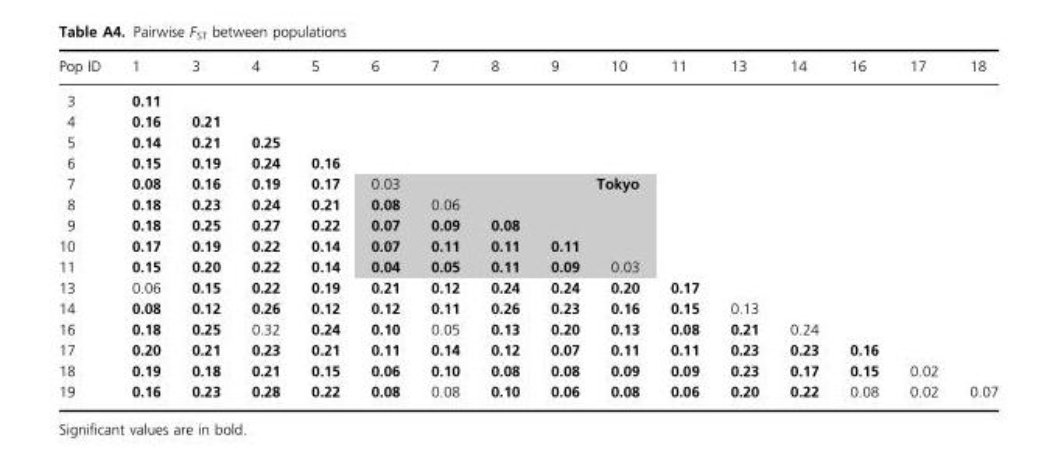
<table><thead><tr><td>Pop ID</td><td>1</td><td>3</td><td>4</td><td>5</td><td>6</td><td>7</td><td>8</td><td>9</td><td>10</td><td>11</td><td>13</td><td>14</td><td>16</td><td>17</td><td>18</td></tr></thead><tbody><tr><td>3</td><td>0.11</td><td></td><td></td><td></td><td></td><td></td><td></td><td></td><td></td><td></td><td></td><td></td><td></td><td></td><td></td></tr><tr><td>4</td><td>0.16</td><td>0.21</td><td></td><td></td><td></td><td></td><td></td><td></td><td></td><td></td><td></td><td></td><td></td><td></td><td></td></tr><tr><td>5</td><td>0.14</td><td>0.21</td><td>0.25</td><td></td><td></td><td></td><td></td><td></td><td></td><td></td><td></td><td></td><td></td><td></td><td></td></tr><tr><td>6</td><td>0.15</td><td>0.19</td><td>0.24</td><td>0.16</td><td></td><td></td><td></td><td></td><td></td><td></td><td></td><td></td><td></td><td></td><td></td></tr><tr><td>7</td><td>0.08</td><td>0.16</td><td>0.19</td><td>0.17</td><td>0.03</td><td></td><td></td><td></td><td colspan="2">Tokyo</td><td></td><td></td><td></td><td></td><td></td></tr><tr><td>8</td><td>0.18</td><td>0.23</td><td>0.24</td><td>0.21</td><td>0.08</td><td>0.06</td><td></td><td></td><td></td><td></td><td></td><td></td><td></td><td></td><td></td></tr><tr><td>9</td><td>0.18</td><td>0.25</td><td>0.27</td><td>0.22</td><td>0.07</td><td>0.09</td><td>0.08</td><td></td><td></td><td></td><td></td><td></td><td></td><td></td><td></td></tr><tr><td>10</td><td>0.17</td><td>0.19</td><td>0.22</td><td>0.14</td><td>0.07</td><td>0.11</td><td>0.11</td><td>0.11</td><td></td><td></td><td></td><td></td><td></td><td></td><td></td></tr><tr><td>11</td><td>0.15</td><td>0.20</td><td>0.22</td><td>0.14</td><td>0.04</td><td>0.05</td><td>0.11</td><td>0.09</td><td>0.03</td><td></td><td></td><td></td><td></td><td></td><td></td></tr><tr><td>13</td><td>0.06</td><td>0.15</td><td>0.22</td><td>0.19</td><td>0.21</td><td>0.12</td><td>0.24</td><td>0.24</td><td>0.20</td><td>0.17</td><td></td><td></td><td></td><td></td><td></td></tr><tr><td>14</td><td>0.08</td><td>0.12</td><td>0.26</td><td>0.12</td><td>0.12</td><td>0.11</td><td>0.26</td><td>0.23</td><td>0.16</td><td>0.15</td><td>0.13</td><td></td><td></td><td></td><td></td></tr><tr><td>16</td><td>0.18</td><td>0.25</td><td>0.32</td><td>0.24</td><td>0.10</td><td>0.05</td><td>0.13</td><td>0.20</td><td>0.13</td><td>0.08</td><td>0.21</td><td>0.24</td><td></td><td></td><td></td></tr><tr><td>17</td><td>0.20</td><td>0.21</td><td>0.23</td><td>0.21</td><td>0.11</td><td>0.14</td><td>0.12</td><td>0.07</td><td>0.11</td><td>0.11</td><td>0.23</td><td>0.23</td><td>0.16</td><td></td><td></td></tr><tr><td>18</td><td>0.19</td><td>0.18</td><td>0.21</td><td>0.15</td><td>0.06</td><td>0.10</td><td>0.08</td><td>0.08</td><td>0.09</td><td>0.09</td><td>0.23</td><td>0.17</td><td>0.15</td><td>0.02</td><td></td></tr><tr><td>19</td><td>0.16</td><td>0.23</td><td>0.28</td><td>0.22</td><td>0.08</td><td>0.08</td><td>0.10</td><td>0.06</td><td>0.08</td><td>0.06</td><td>0.20</td><td>0.22</td><td>0.08</td><td>0.02</td><td>0.07</td></tr></tbody></table>